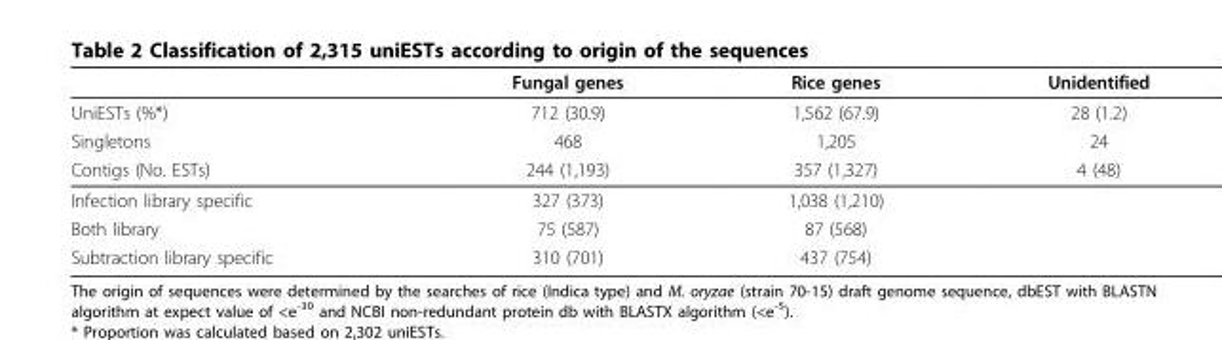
<table><thead><tr><td></td><td>Fungal genes</td><td>Rice genes</td><td>Unidentified</td></tr></thead><tbody><tr><td>UniESTs (%*)</td><td>712 (30.9)</td><td>1,562 (67.9)</td><td>28 (1.2)</td></tr><tr><td>Singletons</td><td>468</td><td>1,205</td><td>24</td></tr><tr><td>Contigs (No. ESTs)</td><td>244 (1,193)</td><td>357 (1,327)</td><td>4 (48)</td></tr><tr><td>Infection library specific</td><td>327 (373)</td><td>1,038 (1,210)</td><td></td></tr><tr><td>Both library</td><td>75 (587)</td><td>87 (568)</td><td></td></tr><tr><td>Subtraction library specific</td><td>310 (701)</td><td>437 (754)</td><td></td></tr></tbody></table>